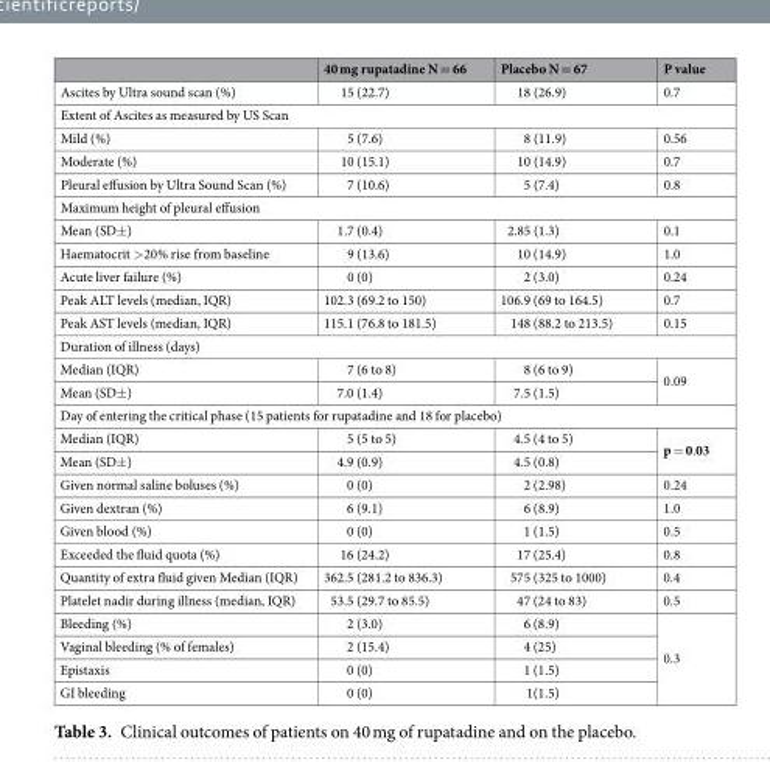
<table><thead><tr><td></td><td>40 mg rupatadine N = 66</td><td>Placebo N = 67</td><td>P value</td></tr></thead><tbody><tr><td>Ascites by Ultra sound scan (%)</td><td>15 (22.7)</td><td>18 (26.9)</td><td>0.7</td></tr><tr><td colspan="4">Extent of Ascites as measured by US Scan</td></tr><tr><td>Mild (%)</td><td>5 (7.6)</td><td>8 (11.9)</td><td>0.56</td></tr><tr><td>Moderate (%)</td><td>10 (15.1)</td><td>10 (14.9)</td><td>0.7</td></tr><tr><td>Pleural effusion by Ultra Sound Scan (%)</td><td>7 (10.6)</td><td>5 (7.4)</td><td>0.8</td></tr><tr><td colspan="4">Maximum height of pleural effusion</td></tr><tr><td>Mean (SD±)</td><td>1.7 (0.4)</td><td>2.85 (1.3)</td><td>0.1</td></tr><tr><td>Haematocrit &gt;20% rise from baseline</td><td>9 (13.6)</td><td>10 (14.9)</td><td>1.0</td></tr><tr><td>Acute liver failure (%)</td><td>0 (0)</td><td>2 (3.0)</td><td>0.24</td></tr><tr><td>Peak ALT levels (median, IQR)</td><td>102.3 (69.2 to 150)</td><td>106.9 (69 to 164.5)</td><td>0.7</td></tr><tr><td>Peak AST levels (median, IQR)</td><td>115.1 (76.8 to 181.5)</td><td>148 (88.2 to 213.5)</td><td>0.15</td></tr><tr><td colspan="4">Duration of illness (days)</td></tr><tr><td>Median (IQR)</td><td>7 (6 to 8)</td><td>8 (6 to 9)</td><td rowspan="2">0.09</td></tr><tr><td>Mean (SD±)</td><td>7.0 (1.4)</td><td>7.5 (1.5)</td></tr><tr><td colspan="4">Day of entering the critical phase (15 patients for rupatadine and 18 for placebo)</td></tr><tr><td>Median (IQR)</td><td>5 (5 to 5)</td><td>4.5 (4 to 5)</td><td rowspan="2">p = 0.03</td></tr><tr><td>Mean (SD±)</td><td>4.9 (0.9)</td><td>4.5 (0.8)</td></tr><tr><td>Given normal saline boluses (%)</td><td>0 (0)</td><td>2 (2.98)</td><td>0.24</td></tr><tr><td>Given dextran (%)</td><td>6 (9.1)</td><td>6 (8.9)</td><td>1.0</td></tr><tr><td>Given blood (%)</td><td>0 (0)</td><td>1 (1.5)</td><td>0.5</td></tr><tr><td>Exceeded the fluid quota (%)</td><td>16 (24.2)</td><td>17 (25.4)</td><td>0.8</td></tr><tr><td>Quantity of extra fluid given Median (IQR)</td><td>362.5 (281.2 to 836.3)</td><td>575 (325 to 1000)</td><td>0.4</td></tr><tr><td>Platelet nadir during illness (median, IQR)</td><td>53.5 (29.7 to 85.5)</td><td>47 (24 to 83)</td><td>0.5</td></tr><tr><td>Bleeding (%)</td><td>2 (3.0)</td><td>6 (8.9)</td><td rowspan="4">0.3</td></tr><tr><td>Vaginal bleeding (% of females)</td><td>2 (15.4)</td><td>4 (25)</td></tr><tr><td>Epistaxis</td><td>0 (0)</td><td>1 (1.5)</td></tr><tr><td>GI bleeding</td><td>0 (0)</td><td>1(1.5)</td></tr></tbody></table>